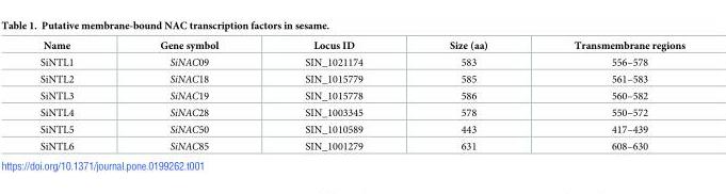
<table><thead><tr><td>Name</td><td>Gene symbol</td><td>Locus ID</td><td>Size (aa)</td><td>Transmembrane regions</td></tr></thead><tbody><tr><td>SiNTL1</td><td>SiNAC09</td><td>SIN_1021174</td><td>583</td><td>556–578</td></tr><tr><td>SiNTL2</td><td>SiNAC18</td><td>SIN_1015779</td><td>585</td><td>561–583</td></tr><tr><td>SiNTL3</td><td>SiNAC19</td><td>SIN_1015778</td><td>586</td><td>560–582</td></tr><tr><td>SiNTL4</td><td>SiNAC28</td><td>SIN_1003345</td><td>578</td><td>550–572</td></tr><tr><td>SiNTL5</td><td>SiNAC50</td><td>SIN_1010589</td><td>443</td><td>417–439</td></tr><tr><td>SiNTL6</td><td>SiNAC85</td><td>SIN_1001279</td><td>631</td><td>608–630</td></tr></tbody></table>